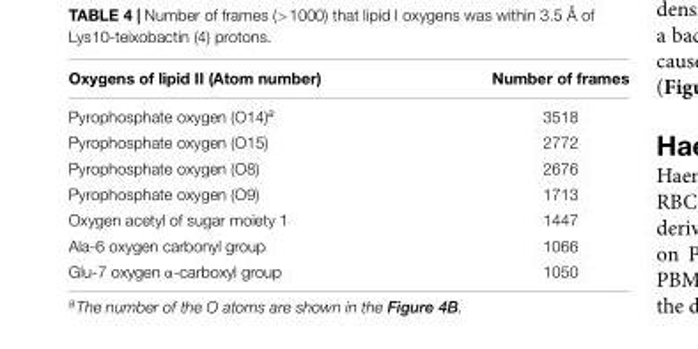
<table><thead><tr><td>Oxygens of lipid II (Atom number)</td><td>Number of frames</td></tr></thead><tbody><tr><td>Pyrophosphate oxygen (O14)<sup>a</sup></td><td>3518</td></tr><tr><td>Pyrophosphate oxygen (O15)</td><td>2772</td></tr><tr><td>Pyrophosphate oxygen (O8)</td><td>2676</td></tr><tr><td>Pyrophosphate oxygen (O9)</td><td>1713</td></tr><tr><td>Oxygen acetyl of sugar moiety 1</td><td>1447</td></tr><tr><td>Ala-6 oxygen carbonyl group</td><td>1066</td></tr><tr><td>Glu-7 oxygen α-carboxyl group</td><td>1050</td></tr></tbody></table>